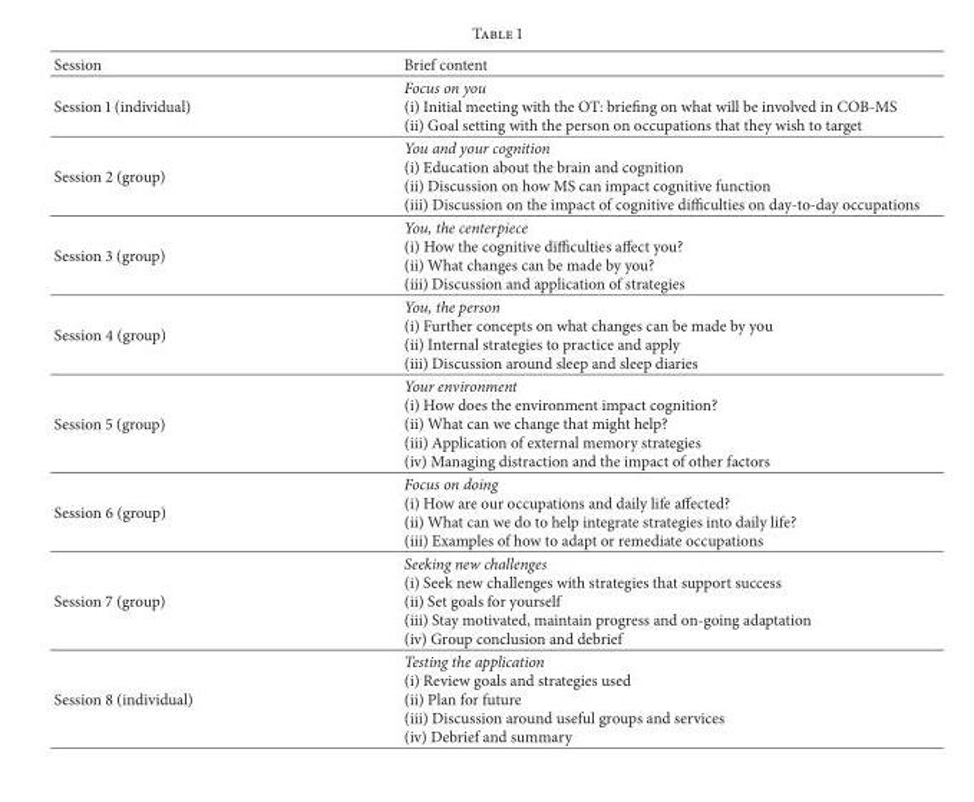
<table><thead><tr><td>Session</td><td>Brief content</td></tr></thead><tbody><tr><td>Session 1 (individual)</td><td>Focus on you (i) Initial meeting with the OT: briefing on what will be involved in COB-MS (ii) Goal setting with the person on occupations that they wish to target</td></tr><tr><td>Session 2 (group)</td><td>You and your cognition (i) Education about the brain and cognition (ii) Discussion on how MS can impact cognitive function (iii) Discussion on the impact of cognitive difficulties on day-to-day occupations</td></tr><tr><td>Session 3 (group)</td><td>You, the centerpiece (i) How the cognitive difficulties affect you? (ii) What changes can be made by you? (iii) Discussion and application of strategies</td></tr><tr><td>Session 4 (group)</td><td>You, the person (i) Further concepts on what changes can be made by you (ii) Internal strategies to practice and apply (iii) Discussion around sleep and sleep diaries</td></tr><tr><td>Session 5 (group)</td><td>Your environment (i) How does the environment impact cognition? (ii) What can we change that might help? (iii) Application of external memory strategies (iv) Managing distraction and the impact of other factors</td></tr><tr><td>Session 6 (group)</td><td>Focus on doing (i) How are our occupations and daily life affected? (ii) What can we do to help integrate strategies into daily life? (iii) Examples of how to adapt or remediate occupations</td></tr><tr><td>Session 7 (group)</td><td>Seeking new challenges (i) Seek new challenges with strategies that support success (ii) Set goals for yourself (iii) Stay motivated, maintain progress and on-going adaptation (iv) Group conclusion and debrief</td></tr><tr><td>Session 8 (individual)</td><td>Testing the application (i) Review goals and strategies used (ii) Plan for future (iii) Discussion around useful groups and services (iv) Debrief and summary</td></tr></tbody></table>